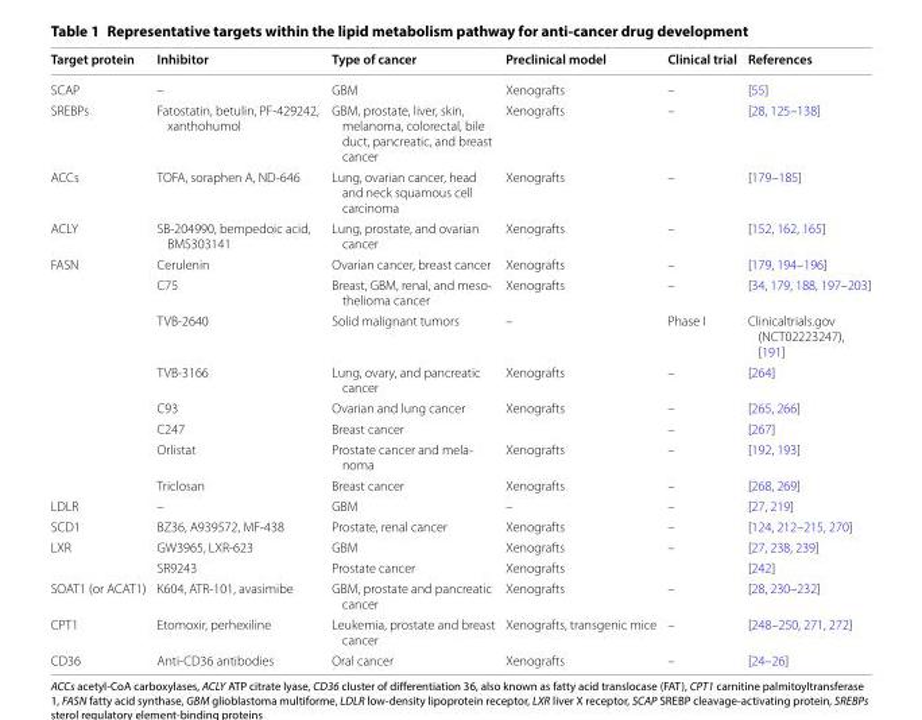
<table><thead><tr><td>Target protein</td><td>Inhibitor</td><td>Type of cancer</td><td>Preclinical model</td><td>Clinical trial</td><td>References</td></tr></thead><tbody><tr><td>SCAP</td><td>–</td><td>GBM</td><td>Xenografts</td><td>–</td><td>[55]</td></tr><tr><td>SREBPs</td><td>Fatostatin, betulin, PF-429242, xanthohumol</td><td>GBM, prostate, liver, skin, melanoma, colorectal, bile duct, pancreatic, and breast cancer</td><td>Xenografts</td><td>–</td><td>[28, 125–138]</td></tr><tr><td>ACCs</td><td>TOFA, soraphen A, ND-646</td><td>Lung, ovarian cancer, head and neck squamous cell carcinoma</td><td>Xenografts</td><td>–</td><td>[179–185]</td></tr><tr><td>ACLY</td><td>SB-204990, bempedoic acid, BMS303141</td><td>Lung, prostate, and ovarian cancer</td><td>Xenografts</td><td>–</td><td>[152, 162, 165]</td></tr><tr><td rowspan="8">FASN</td><td>Cerulenin</td><td>Ovarian cancer, breast cancer</td><td>Xenografts</td><td>–</td><td>[179, 194–196]</td></tr><tr><td>C75</td><td>Breast, GBM, renal, and meso- thelioma cancer</td><td>Xenografts</td><td>–</td><td>[34, 179, 188, 197–203]</td></tr><tr><td>TVB-2640</td><td>Solid malignant tumors</td><td>–</td><td>Phase I</td><td>Clinicaltrials.gov (NCT02223247), [191]</td></tr><tr><td>TVB-3166</td><td>Lung, ovary, and pancreatic cancer</td><td>Xenografts</td><td>–</td><td>[264]</td></tr><tr><td>C93</td><td>Ovarian and lung cancer</td><td>Xenografts</td><td>–</td><td>[265, 266]</td></tr><tr><td>C247</td><td>Breast cancer</td><td></td><td>–</td><td>[267]</td></tr><tr><td>Orlistat</td><td>Prostate cancer and mela- noma</td><td>Xenografts</td><td>–</td><td>[192, 193]</td></tr><tr><td>Triclosan</td><td>Breast cancer</td><td>Xenografts</td><td>–</td><td>[268, 269]</td></tr><tr><td>LDLR</td><td>–</td><td>GBM</td><td>–</td><td>–</td><td>[27, 219]</td></tr><tr><td>SCD1</td><td>BZ36, A939572, MF-438</td><td>Prostate, renal cancer</td><td>Xenografts</td><td>–</td><td>[124, 212–215, 270]</td></tr><tr><td rowspan="2">LXR</td><td>GW3965, LXR-623</td><td>GBM</td><td>Xenografts</td><td>–</td><td>[27, 238, 239]</td></tr><tr><td>SR9243</td><td>Prostate cancer</td><td>Xenografts</td><td></td><td>[242]</td></tr><tr><td>SOAT1 (or ACAT1)</td><td>K604, ATR-101, avasimibe</td><td>GBM, prostate and pancreatic cancer</td><td>Xenografts</td><td>–</td><td>[28, 230–232]</td></tr><tr><td>CPT1</td><td>Etomoxir, perhexiline</td><td>Leukemia, prostate and breast cancer</td><td>Xenografts, transgenic mice</td><td>–</td><td>[248–250, 271, 272]</td></tr><tr><td>CD36</td><td>Anti-CD36 antibodies</td><td>Oral cancer</td><td>Xenografts</td><td>–</td><td>[24–26]</td></tr></tbody></table>